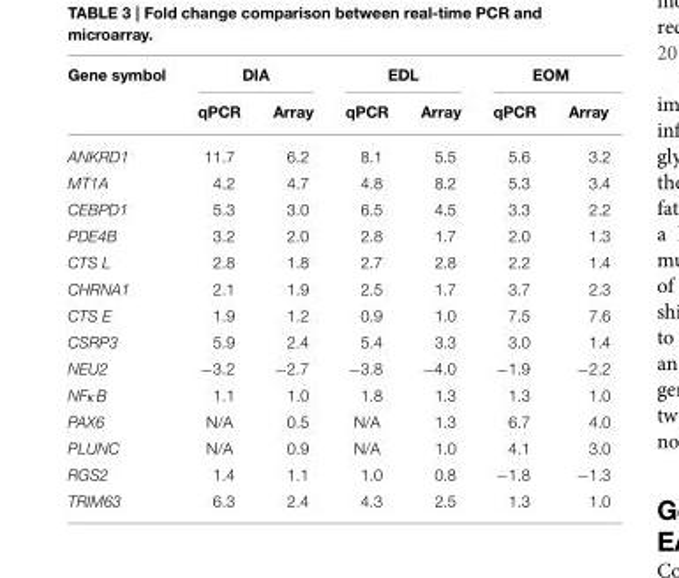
<table><thead><tr><td rowspan="2">Gene symbol</td><td colspan="2">DIA</td><td colspan="2">EDL</td><td colspan="2">EOM</td></tr><tr><td>qPCR</td><td>Array</td><td>qPCR</td><td>Array</td><td>qPCR</td><td>Array</td></tr></thead><tbody><tr><td>ANKRD1</td><td>11.7</td><td>6.2</td><td>8.1</td><td>5.5</td><td>5.6</td><td>3.2</td></tr><tr><td>MT1A</td><td>4.2</td><td>4.7</td><td>4.8</td><td>8.2</td><td>5.3</td><td>3.4</td></tr><tr><td>CEBPD1</td><td>5.3</td><td>3.0</td><td>6.5</td><td>4.5</td><td>3.3</td><td>2.2</td></tr><tr><td>PDE4B</td><td>3.2</td><td>2.0</td><td>2.8</td><td>1.7</td><td>2.0</td><td>1.3</td></tr><tr><td>CTS L</td><td>2.8</td><td>1.8</td><td>2.7</td><td>2.8</td><td>2.2</td><td>1.4</td></tr><tr><td>CHRNA1</td><td>2.1</td><td>1.9</td><td>2.5</td><td>1.7</td><td>3.7</td><td>2.3</td></tr><tr><td>CTS E</td><td>1.9</td><td>1.2</td><td>0.9</td><td>1.0</td><td>7.5</td><td>7.6</td></tr><tr><td>CSRP3</td><td>5.9</td><td>2.4</td><td>5.4</td><td>3.3</td><td>3.0</td><td>1.4</td></tr><tr><td>NEU2</td><td>−3.2</td><td>−2.7</td><td>−3.8</td><td>−4.0</td><td>−1.9</td><td>−2.2</td></tr><tr><td>NFκB</td><td>1.1</td><td>1.0</td><td>1.8</td><td>1.3</td><td>1.3</td><td>1.0</td></tr><tr><td>PAX6</td><td>N/A</td><td>0.5</td><td>N/A</td><td>1.3</td><td>6.7</td><td>4.0</td></tr><tr><td>PLUNC</td><td>N/A</td><td>0.9</td><td>N/A</td><td>1.0</td><td>4.1</td><td>3.0</td></tr><tr><td>RGS2</td><td>1.4</td><td>1.1</td><td>1.0</td><td>0.8</td><td>−1.8</td><td>−1.3</td></tr><tr><td>TRIM63</td><td>6.3</td><td>2.4</td><td>4.3</td><td>2.5</td><td>1.3</td><td>1.0</td></tr></tbody></table>